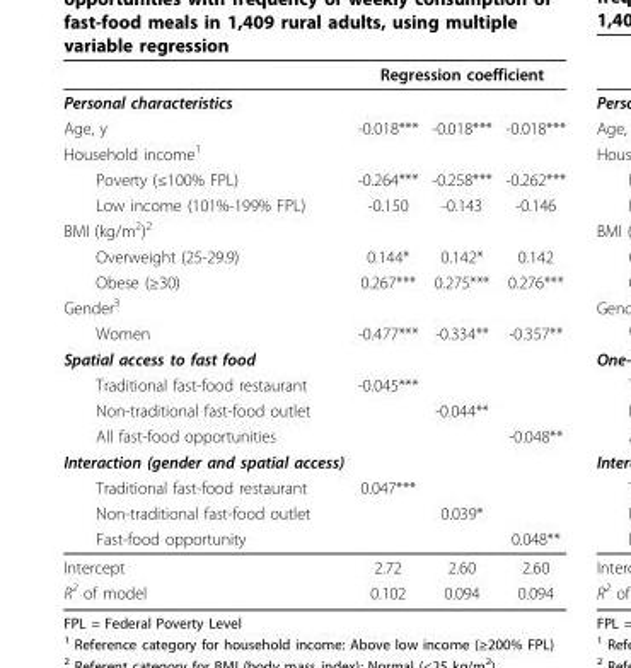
<table><thead><tr><td rowspan="2">Personal characteristics</td><td colspan="3">Regression coefficient</td></tr><tr><td></td><td></td><td></td></tr></thead><tbody><tr><td>Age, y</td><td>-0.018***</td><td>-0.018***</td><td>-0.018***</td></tr><tr><td colspan="4">Household income<sup>1</sup></td></tr><tr><td>Poverty (≤100% FPL)</td><td>-0.264***</td><td>-0.258***</td><td>-0.262***</td></tr><tr><td>Low income (101%-199% FPL)</td><td>-0.150</td><td>-0.143</td><td>-0.146</td></tr><tr><td colspan="4">BMI (kg/m<sup>2</sup>)<sup>2</sup></td></tr><tr><td>Overweight (25-29.9)</td><td>0.144*</td><td>0.142*</td><td>0.142</td></tr><tr><td>Obese (≥30)</td><td>0.267***</td><td>0.275***</td><td>0.276***</td></tr><tr><td colspan="4">Gender<sup>3</sup></td></tr><tr><td>Women</td><td>-0.477***</td><td>-0.334**</td><td>-0.357**</td></tr><tr><td colspan="4">Spatial access to fast food</td></tr><tr><td>Traditional fast-food restaurant</td><td>-0.045***</td><td></td><td></td></tr><tr><td>Non-traditional fast-food outlet</td><td></td><td>-0.044**</td><td></td></tr><tr><td>All fast-food opportunities</td><td></td><td></td><td>-0.048**</td></tr><tr><td colspan="4">Interaction (gender and spatial access)</td></tr><tr><td>Traditional fast-food restaurant</td><td>0.047***</td><td></td><td></td></tr><tr><td>Non-traditional fast-food outlet</td><td></td><td>0.039*</td><td></td></tr><tr><td>Fast-food opportunity</td><td></td><td></td><td>0.048**</td></tr><tr><td>Intercept</td><td>2.72</td><td>2.60</td><td>2.60</td></tr><tr><td>R<sup>2</sup> of model</td><td>0.102</td><td>0.094</td><td>0.094</td></tr></tbody></table>